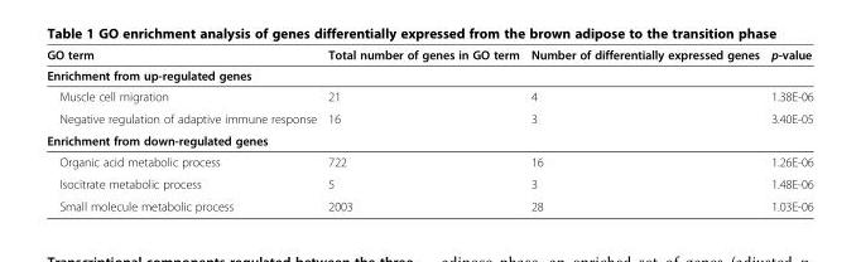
<table><thead><tr><td>GO term</td><td>Total number of genes in GO term</td><td>Number of differentially expressed genes</td><td>p-value</td></tr></thead><tbody><tr><td colspan="4">Enrichment from up-regulated genes</td></tr><tr><td>Muscle cell migration</td><td>21</td><td>4</td><td>1.38E-06</td></tr><tr><td>Negative regulation of adaptive immune response</td><td>16</td><td>3</td><td>3.40E-05</td></tr><tr><td colspan="4">Enrichment from down-regulated genes</td></tr><tr><td>Organic acid metabolic process</td><td>722</td><td>16</td><td>1.26E-06</td></tr><tr><td>Isocitrate metabolic process</td><td>5</td><td>3</td><td>1.48E-06</td></tr><tr><td>Small molecule metabolic process</td><td>2003</td><td>28</td><td>1.03E-06</td></tr></tbody></table>